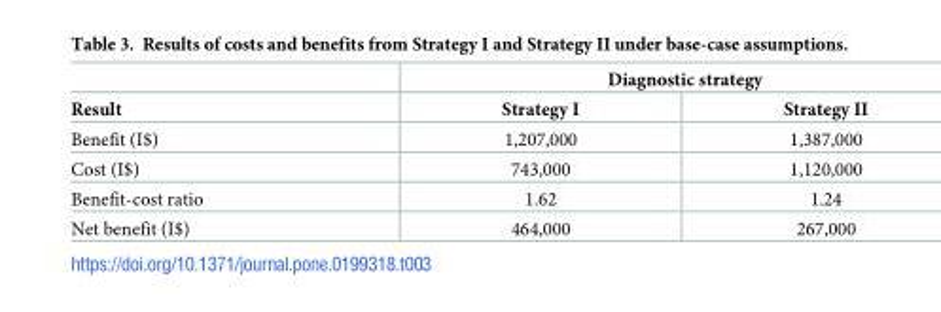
<table><thead><tr><td rowspan="2">Result</td><td colspan="2">Diagnostic strategy</td></tr><tr><td>Strategy I</td><td>Strategy II</td></tr></thead><tbody><tr><td>Benefit (I$)</td><td>1,207,000</td><td>1,387,000</td></tr><tr><td>Cost (I$)</td><td>743,000</td><td>1,120,000</td></tr><tr><td>Benefit-cost ratio</td><td>1.62</td><td>1.24</td></tr><tr><td>Net benefit (I$)</td><td>464,000</td><td>267,000</td></tr></tbody></table>